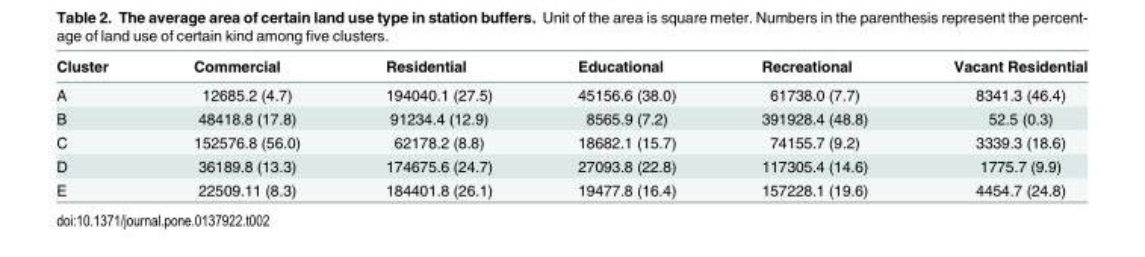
<table><thead><tr><td>Cluster</td><td>Commercial</td><td>Residential</td><td>Educational</td><td>Recreational</td><td>Vacant Residential</td></tr></thead><tbody><tr><td>A</td><td>12685.2 (4.7)</td><td>194040.1 (27.5)</td><td>45156.6 (38.0)</td><td>61738.0 (7.7)</td><td>8341.3 (46.4)</td></tr><tr><td>B</td><td>48418.8 (17.8)</td><td>91234.4 (12.9)</td><td>8565.9 (7.2)</td><td>391928.4 (48.8)</td><td>52.5 (0.3)</td></tr><tr><td>C</td><td>152576.8 (56.0)</td><td>62178.2 (8.8)</td><td>18682.1 (15.7)</td><td>74155.7 (9.2)</td><td>3339.3 (18.6)</td></tr><tr><td>D</td><td>36189.8 (13.3)</td><td>174675.6 (24.7)</td><td>27093.8 (22.8)</td><td>117305.4 (14.6)</td><td>1775.7 (9.9)</td></tr><tr><td>E</td><td>22509.11 (8.3)</td><td>184401.8 (26.1)</td><td>19477.8 (16.4)</td><td>157228.1 (19.6)</td><td>4454.7 (24.8)</td></tr></tbody></table>